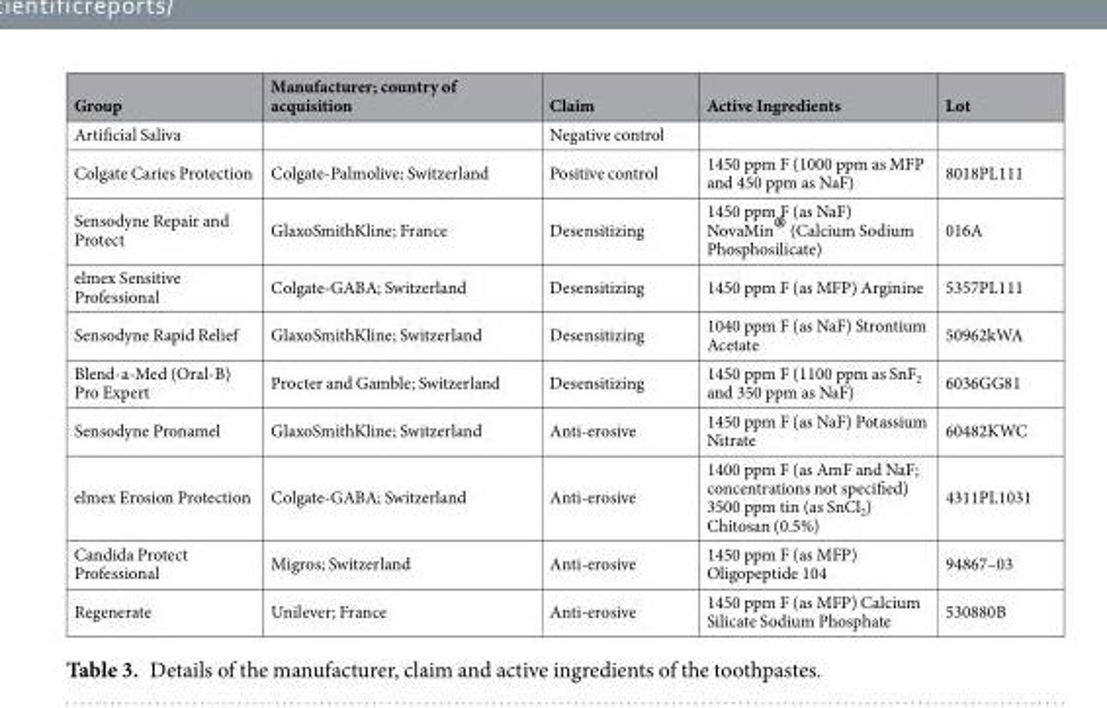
<table><thead><tr><td>Group</td><td>Manufacturer; country of acquisition</td><td>Claim</td><td>Active Ingredients</td><td>Lot</td></tr></thead><tbody><tr><td>Artificial Saliva</td><td></td><td>Negative control</td><td></td><td></td></tr><tr><td>Colgate Caries Protection</td><td>Colgate-Palmolive; Switzerland</td><td>Positive control</td><td>1450 ppm F (1000 ppm as MFP and 450 ppm as NaF)</td><td>8018PL111</td></tr><tr><td>Sensodyne Repair and Protect</td><td>GlaxoSmithKline; France</td><td>Desensitizing</td><td>1450 ppm F (as NaF) NovaMin<sup>®</sup> (Calcium Sodium Phosphosilicate)</td><td>016A</td></tr><tr><td>elmex Sensitive Professional</td><td>Colgate-GABA; Switzerland</td><td>Desensitizing</td><td>1450 ppm F (as MFP) Arginine</td><td>5357PL111</td></tr><tr><td>Sensodyne Rapid Relief</td><td>GlaxoSmithKline; Switzerland</td><td>Desensitizing</td><td>1040 ppm F (as NaF) Strontium Acetate</td><td>50962kWA</td></tr><tr><td>Blend-a-Med (Oral-B) Pro Expert</td><td>Procter and Gamble; Switzerland</td><td>Desensitizing</td><td>1450 ppm F (1100 ppm as SnF<sub>2</sub> and 350 ppm as NaF)</td><td>6036GG81</td></tr><tr><td>Sensodyne Pronamel</td><td>GlaxoSmithKline; Switzerland</td><td>Anti-erosive</td><td>1450 ppm F (as NaF) Potassium Nitrate</td><td>60482KWC</td></tr><tr><td>elmex Erosion Protection</td><td>Colgate-GABA; Switzerland</td><td>Anti-erosive</td><td>1400 ppm F (as AmF and NaF; concentrations not specified) 3500 ppm tin (as SnCl<sub>2</sub>) Chitosan (0.5%)</td><td>4311PL1031</td></tr><tr><td>Candida Protect Professional</td><td>Migros; Switzerland</td><td>Anti-erosive</td><td>1450 ppm F (as MFP) Oligopeptide 104</td><td>94867–03</td></tr><tr><td>Regenerate</td><td>Unilever; France</td><td>Anti-erosive</td><td>1450 ppm F (as MFP) Calcium Silicate Sodium Phosphate</td><td>530880B</td></tr></tbody></table>